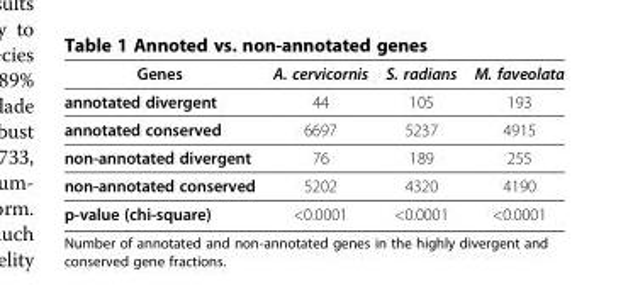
<table><thead><tr><td>Genes</td><td>A. cervicornis</td><td>S. radians</td><td>M. faveolata</td></tr></thead><tbody><tr><td>annotated divergent</td><td>44</td><td>105</td><td>193</td></tr><tr><td>annotated conserved</td><td>6697</td><td>5237</td><td>4915</td></tr><tr><td>non-annotated divergent</td><td>76</td><td>189</td><td>255</td></tr><tr><td>non-annotated conserved</td><td>5202</td><td>4320</td><td>4190</td></tr><tr><td>p-value (chi-square)</td><td>&lt;0.0001</td><td>&lt;0.0001</td><td>&lt;0.0001</td></tr></tbody></table>